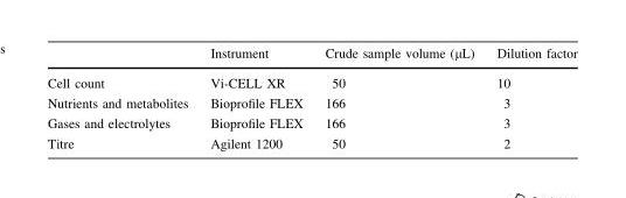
<table><thead><tr><td></td><td>Instrument</td><td>Crude sample volume (μL)</td><td>Dilution factor</td></tr></thead><tbody><tr><td>Cell count</td><td>Vi-CELL XR</td><td>50</td><td>10</td></tr><tr><td>Nutrients and metabolites</td><td>Bioprofile FLEX</td><td>166</td><td>3</td></tr><tr><td>Gases and electrolytes</td><td>Bioprofile FLEX</td><td>166</td><td>3</td></tr><tr><td>Titre</td><td>Agilent 1200</td><td>50</td><td>2</td></tr></tbody></table>